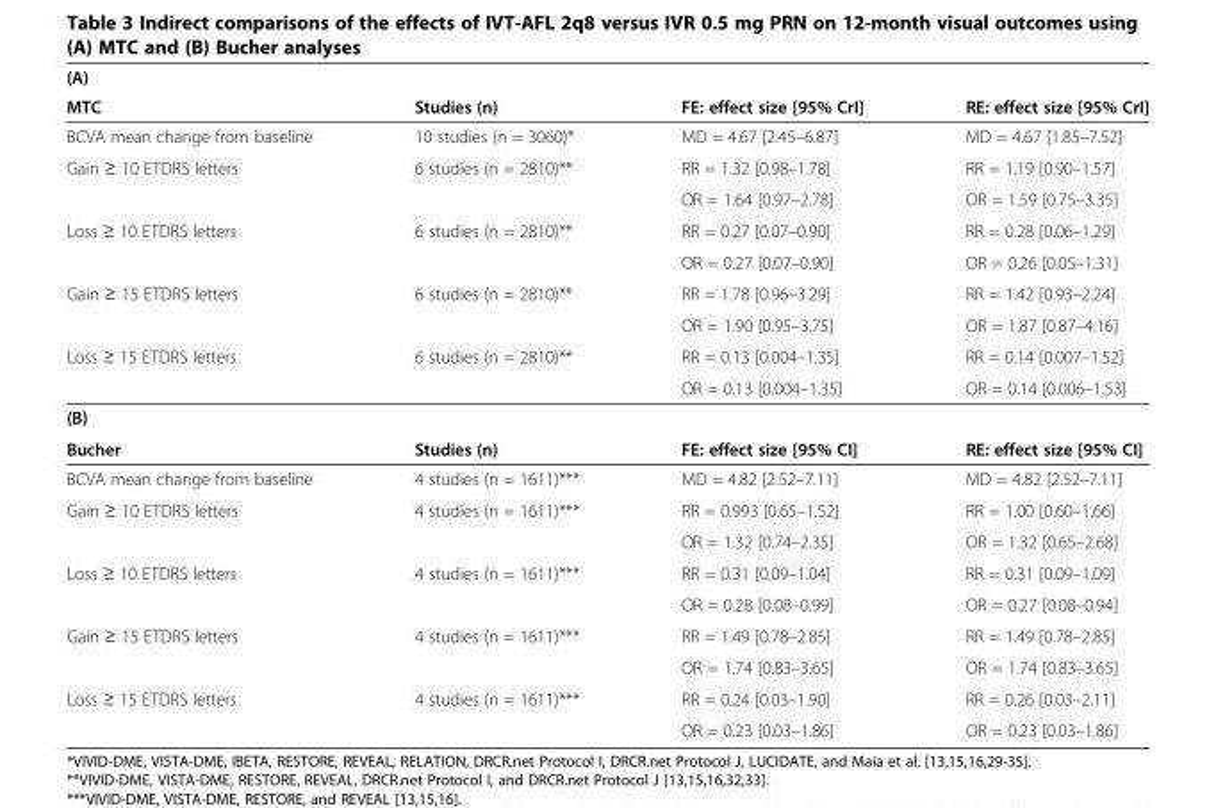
<table><thead><tr><td colspan="4">(A)</td></tr><tr><td>MTC</td><td>Studies (n)</td><td>FE: effect size [95% CrI]</td><td>RE: effect size [95% CrI]</td></tr></thead><tbody><tr><td>BCVA mean change from baseline</td><td>10 studies (n = 3060)*</td><td>MD = 4.67 [2.45–6.87]</td><td>MD = 4.67 [1.85–7.52]</td></tr><tr><td rowspan="2">Gain ≥ 10 ETDRS letters</td><td rowspan="2">6 studies (n = 2810)**</td><td>RR = 1.32 [0.98–1.78]</td><td>RR = 1.19 [0.90–1.57]</td></tr><tr><td>OR = 1.64 [0.97–2.78]</td><td>OR = 1.59 [0.75–3.35]</td></tr><tr><td rowspan="2">Loss ≥ 10 ETDRS letters</td><td rowspan="2">6 studies (n = 2810)**</td><td>RR = 0.27 [0.07–0.90]</td><td>RR = 0.28 [0.06–1.29]</td></tr><tr><td>OR = 0.27 [0.07–0.90]</td><td>OR = 0.26 [0.05–1.31]</td></tr><tr><td rowspan="2">Gain ≥ 15 ETDRS letters</td><td rowspan="2">6 studies (n = 2810)**</td><td>RR = 1.78 [0.96–3.29]</td><td>RR = 1.42 [0.93–2.24]</td></tr><tr><td>OR = 1.90 [0.95–3.75]</td><td>OR = 1.87 [0.87–4.16]</td></tr><tr><td rowspan="2">Loss ≥ 15 ETDRS letters</td><td rowspan="2">6 studies (n = 2810)**</td><td>RR = 0.13 [0.004–1.35]</td><td>RR = 0.14 [0.007–1.52]</td></tr><tr><td>OR = 0.13 [0.004–1.35]</td><td>OR = 0.14 [0.006–1.53]</td></tr><tr><td colspan="4">(B)</td></tr><tr><td>Bucher</td><td>Studies (n)</td><td>FE: effect size [95% CI]</td><td>RE: effect size [95% CI]</td></tr><tr><td>BCVA mean change from baseline</td><td>4 studies (n = 1611)***</td><td>MD = 4.82 [2.52–7.11]</td><td>MD = 4.82 [2.52–7.11]</td></tr><tr><td rowspan="2">Gain ≥ 10 ETDRS letters</td><td rowspan="2">4 studies (n = 1611)***</td><td>RR = 0.993 [0.65–1.52]</td><td>RR = 1.00 [0.60–1.66]</td></tr><tr><td>OR = 1.32 [0.74–2.35]</td><td>OR = 1.32 [0.65–2.68]</td></tr><tr><td rowspan="2">Loss ≥ 10 ETDRS letters</td><td rowspan="2">4 studies (n = 1611)***</td><td>RR = 0.31 [0.09–1.04]</td><td>RR = 0.31 [0.09–1.09]</td></tr><tr><td>OR = 0.28 [0.08–0.99]</td><td>OR = 0.27 [0.08–0.94]</td></tr><tr><td rowspan="2">Gain ≥ 15 ETDRS letters</td><td rowspan="2">4 studies (n = 1611)***</td><td>RR = 1.49 [0.78–2.85]</td><td>RR = 1.49 [0.78–2.85]</td></tr><tr><td>OR = 1.74 [0.83–3.65]</td><td>OR = 1.74 [0.83–3.65]</td></tr><tr><td rowspan="2">Loss ≥ 15 ETDRS letters</td><td rowspan="2">4 studies (n = 1611)***</td><td>RR = 0.24 [0.03–1.90]</td><td>RR = 0.26 [0.03–2.11]</td></tr><tr><td>OR = 0.23 [0.03–1.86]</td><td>OR = 0.23 [0.03–1.86]</td></tr></tbody></table>